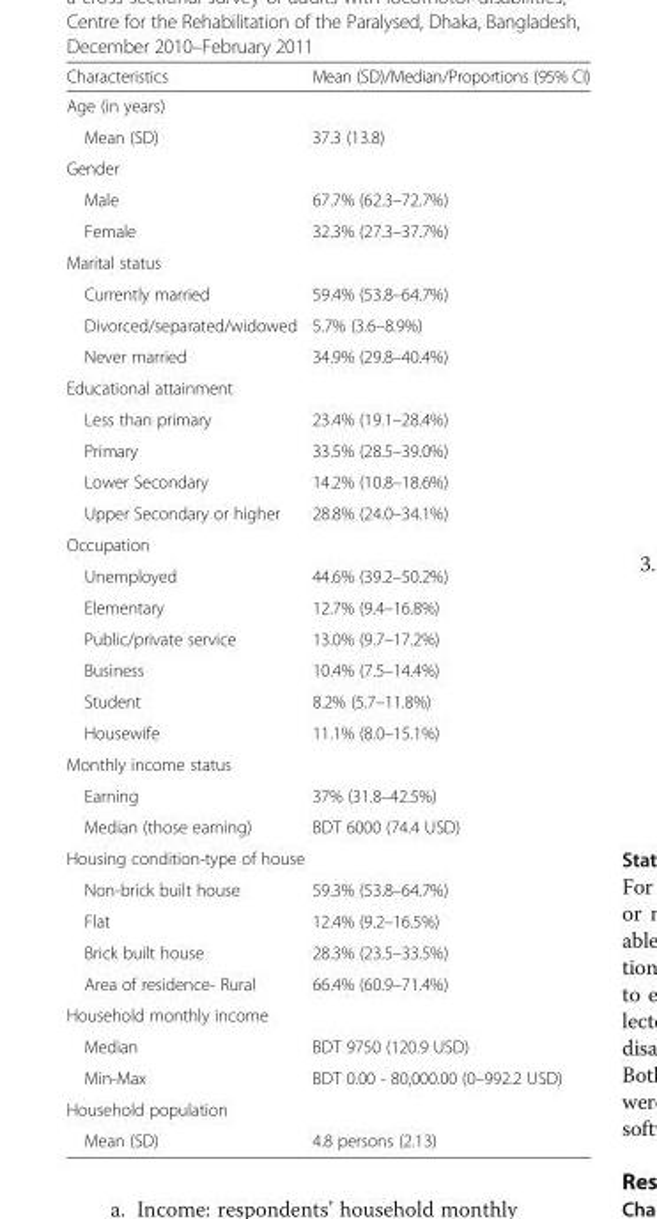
<table><thead><tr><td>Characteristics</td><td>Mean (SD)/Median/Proportions (95% CI)</td></tr></thead><tbody><tr><td colspan="2">Age (in years)</td></tr><tr><td>Mean (SD)</td><td>37.3 (13.8)</td></tr><tr><td colspan="2">Gender</td></tr><tr><td>Male</td><td>67.7% (62.3–72.7%)</td></tr><tr><td>Female</td><td>32.3% (27.3–37.7%)</td></tr><tr><td colspan="2">Marital status</td></tr><tr><td>Currently married</td><td>59.4% (53.8–64.7%)</td></tr><tr><td>Divorced/separated/widowed</td><td>5.7% (3.6–8.9%)</td></tr><tr><td>Never married</td><td>34.9% (29.8–40.4%)</td></tr><tr><td colspan="2">Educational attainment</td></tr><tr><td>Less than primary</td><td>23.4% (19.1–28.4%)</td></tr><tr><td>Primary</td><td>33.5% (28.5–39.0%)</td></tr><tr><td>Lower Secondary</td><td>14.2% (10.8–18.6%)</td></tr><tr><td>Upper Secondary or higher</td><td>28.8% (24.0–34.1%)</td></tr><tr><td colspan="2">Occupation</td></tr><tr><td>Unemployed</td><td>44.6% (39.2–50.2%)</td></tr><tr><td>Elementary</td><td>12.7% (9.4–16.8%)</td></tr><tr><td>Public/private service</td><td>13.0% (9.7–17.2%)</td></tr><tr><td>Business</td><td>10.4% (7.5–14.4%)</td></tr><tr><td>Student</td><td>8.2% (5.7–11.8%)</td></tr><tr><td>Housewife</td><td>11.1% (8.0–15.1%)</td></tr><tr><td colspan="2">Monthly income status</td></tr><tr><td>Earning</td><td>37% (31.8–42.5%)</td></tr><tr><td>Median (those earning)</td><td>BDT 6000 (74.4 USD)</td></tr><tr><td colspan="2">Housing condition-type of house</td></tr><tr><td>Non-brick built house</td><td>59.3% (53.8–64.7%)</td></tr><tr><td>Flat</td><td>12.4% (9.2–16.5%)</td></tr><tr><td>Brick built house</td><td>28.3% (23.5–33.5%)</td></tr><tr><td>Area of residence- Rural</td><td>66.4% (60.9–71.4%)</td></tr><tr><td colspan="2">Household monthly income</td></tr><tr><td>Median</td><td>BDT 9750 (120.9 USD)</td></tr><tr><td>Min-Max</td><td>BDT 0.00 - 80,000.00 (0–992.2 USD)</td></tr><tr><td colspan="2">Household population</td></tr><tr><td>Mean (SD)</td><td>4.8 persons (2.13)</td></tr></tbody></table>